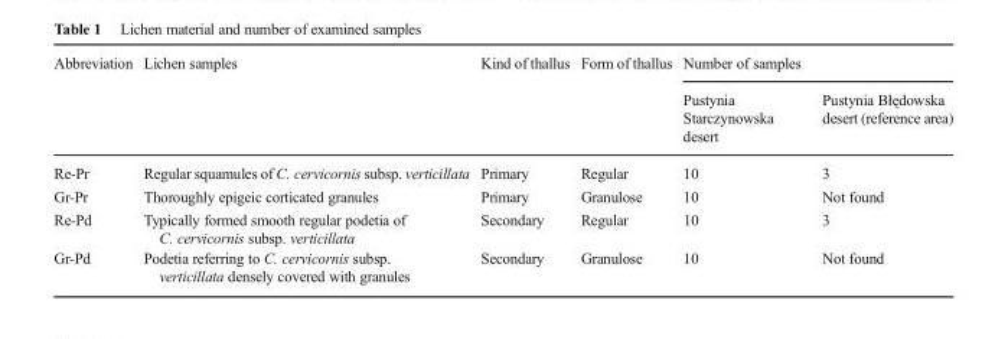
<table><thead><tr><td rowspan="2">Abbreviation</td><td rowspan="2">Lichen samples</td><td rowspan="2">Kind of thallus</td><td rowspan="2">Form of thallus</td><td colspan="2">Number of samples</td></tr><tr><td>Pustynia Starczynowska desert</td><td>Pustynia Błędowska desert (reference area)</td></tr></thead><tbody><tr><td>Re-Pr</td><td>Regular squamules of C. cervicornis subsp. verticillata</td><td>Primary</td><td>Regular</td><td>10</td><td>3</td></tr><tr><td>Gr-Pr</td><td>Thoroughly epigeic corticated granules</td><td>Primary</td><td>Granulose</td><td>10</td><td>Not found</td></tr><tr><td>Re-Pd</td><td>Typically formed smooth regular podetia of C. cervicornis subsp. verticillata</td><td>Secondary</td><td>Regular</td><td>10</td><td>3</td></tr><tr><td>Gr-Pd</td><td>Podetia referring to C. cervicornis subsp. verticillata densely covered with granules</td><td>Secondary</td><td>Granulose</td><td>10</td><td>Not found</td></tr></tbody></table>